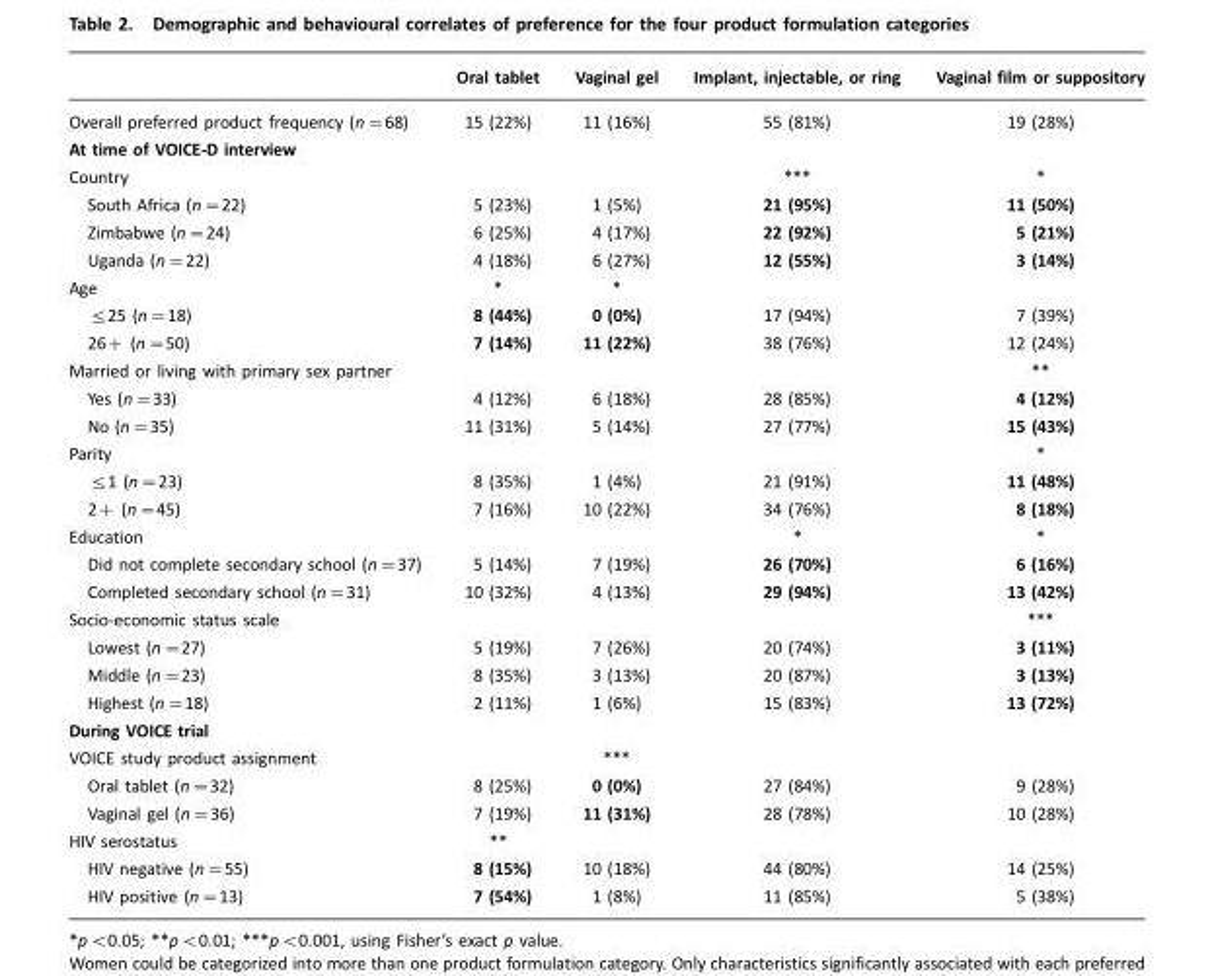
<table><thead><tr><td></td><td>Oral tablet</td><td>Vaginal gel</td><td>Implant, injectable, or ring</td><td>Vaginal film or suppository</td></tr></thead><tbody><tr><td>Overall preferred product frequency (n=68)</td><td>15 (22%)</td><td>11 (16%)</td><td>55 (81%)</td><td>19 (28%)</td></tr><tr><td colspan="5">At time of VOICE-D interview</td></tr><tr><td>Country</td><td></td><td></td><td>***</td><td>*</td></tr><tr><td>South Africa (n=22)</td><td>5 (23%)</td><td>1 (5%)</td><td>21 (95%)</td><td>11 (50%)</td></tr><tr><td>Zimbabwe (n=24)</td><td>6 (25%)</td><td>4 (17%)</td><td>22 (92%)</td><td>5 (21%)</td></tr><tr><td>Uganda (n=22)</td><td>4 (18%)</td><td>6 (27%)</td><td>12 (55%)</td><td>3 (14%)</td></tr><tr><td>Age</td><td>*</td><td>*</td><td></td><td></td></tr><tr><td>≤25 (n=18)</td><td>8 (44%)</td><td>0 (0%)</td><td>17 (94%)</td><td>7 (39%)</td></tr><tr><td>26+ (n=50)</td><td>7 (14%)</td><td>11 (22%)</td><td>38 (76%)</td><td>12 (24%)</td></tr><tr><td>Married or living with primary sex partner</td><td></td><td></td><td></td><td>**</td></tr><tr><td>Yes (n=33)</td><td>4 (12%)</td><td>6 (18%)</td><td>28 (85%)</td><td>4 (12%)</td></tr><tr><td>No (n=35)</td><td>11 (31%)</td><td>5 (14%)</td><td>27 (77%)</td><td>15 (43%)</td></tr><tr><td>Parity</td><td></td><td></td><td></td><td>*</td></tr><tr><td>≤1 (n=23)</td><td>8 (35%)</td><td>1 (4%)</td><td>21 (91%)</td><td>11 (48%)</td></tr><tr><td>2+ (n=45)</td><td>7 (16%)</td><td>10 (22%)</td><td>34 (76%)</td><td>8 (18%)</td></tr><tr><td>Education</td><td></td><td></td><td>*</td><td>*</td></tr><tr><td>Did not complete secondary school (n=37)</td><td>5 (14%)</td><td>7 (19%)</td><td>26 (70%)</td><td>6 (16%)</td></tr><tr><td>Completed secondary school (n=31)</td><td>10 (32%)</td><td>4 (13%)</td><td>29 (94%)</td><td>13 (42%)</td></tr><tr><td>Socio-economic status scale</td><td></td><td></td><td></td><td>***</td></tr><tr><td>Lowest (n=27)</td><td>5 (19%)</td><td>7 (26%)</td><td>20 (74%)</td><td>3 (11%)</td></tr><tr><td>Middle (n=23)</td><td>8 (35%)</td><td>3 (13%)</td><td>20 (87%)</td><td>3 (13%)</td></tr><tr><td>Highest (n=18)</td><td>2 (11%)</td><td>1 (6%)</td><td>15 (83%)</td><td>13 (72%)</td></tr><tr><td colspan="5">During VOICE trial</td></tr><tr><td>VOICE study product assignment</td><td></td><td>***</td><td></td><td></td></tr><tr><td>Oral tablet (n=32)</td><td>8 (25%)</td><td>0 (0%)</td><td>27 (84%)</td><td>9 (28%)</td></tr><tr><td>Vaginal gel (n=36)</td><td>7 (19%)</td><td>11 (31%)</td><td>28 (78%)</td><td>10 (28%)</td></tr><tr><td>HIV serostatus</td><td>**</td><td></td><td></td><td></td></tr><tr><td>HIV negative (n=55)</td><td>8 (15%)</td><td>10 (18%)</td><td>44 (80%)</td><td>14 (25%)</td></tr><tr><td>HIV positive (n=13)</td><td>7 (54%)</td><td>1 (8%)</td><td>11 (85%)</td><td>5 (38%)</td></tr></tbody></table>